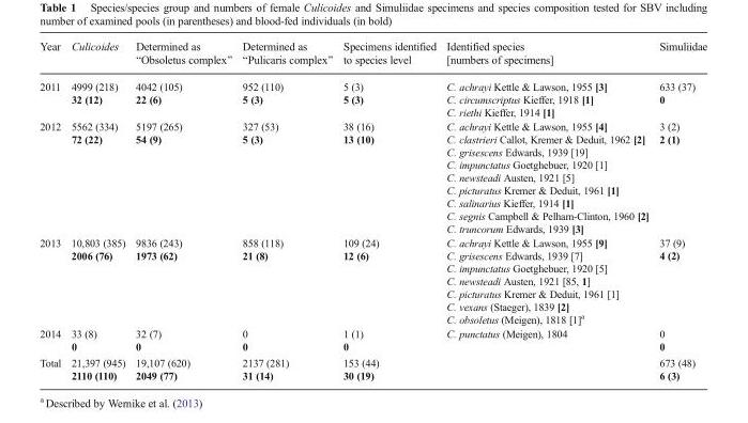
<table><thead><tr><td>Year</td><td>Culicoides</td><td>Determined as “Obsoletus complex”</td><td>Determined as “Pulicaris complex”</td><td>Specimens identified to species level</td><td>Identified species [numbers of specimens]</td><td>Simuliidae</td></tr></thead><tbody><tr><td>2011</td><td>4999 (218) 32 (12)</td><td>4042 (105) 22 (6)</td><td>952 (110) 5 (3)</td><td>5 (3) 5 (3)</td><td>C. achrayi Kettle &amp; Lawson, 1955 [3] C. circumscriptus Kieffer, 1918 [1] C. riethi Kieffer, 1914 [1]</td><td>633 (37) 0</td></tr><tr><td>2012</td><td>5562 (334) 72 (22)</td><td>5197 (265) 54 (9)</td><td>327 (53) 5 (3)</td><td>38 (16) 13 (10)</td><td>C. achrayi Kettle &amp; Lawson, 1955 [4] C. clastrieri Callot, Kremer &amp; Deduit, 1962 [2] C. grisescens Edwards, 1939 [19] C. impunctatus Goetghebuer, 1920 [1] C. newsteadi Austen, 1921 [5] C. picturatus Kremer &amp; Deduit, 1961 [1] C. salinarius Kieffer, 1914 [1] C. segnis Campbell &amp; Pelham-Clinton, 1960 [2] C. truncorum Edwards, 1939 [3]</td><td>3 (2) 2 (1)</td></tr><tr><td>2013</td><td>10,803 (385) 2006 (76)</td><td>9836 (243) 1973 (62)</td><td>858 (118) 21 (8)</td><td>109 (24) 12 (6)</td><td>C. achrayi Kettle &amp; Lawson, 1955 [9] C. grisescens Edwards, 1939 [7] C. impunctatus Goetghebuer, 1920 [5] C. newsteadi Austen, 1921 [85, 1] C. picturatus Kremer &amp; Deduit, 1961 [1] C. vexans (Staeger), 1839 [2] C. obsoletus (Meigen), 1818 [1]<sup>a</sup></td><td>37 (9) 4 (2)</td></tr><tr><td>2014</td><td>33 (8) 0</td><td>32 (7) 0</td><td>0 0</td><td>1 (1) 0</td><td>C. punctatus (Meigen), 1804</td><td>0 0</td></tr><tr><td>Total</td><td>21,397 (945) 2110 (110)</td><td>19,107 (620) 2049 (77)</td><td>2137 (281) 31 (14)</td><td>153 (44) 30 (19)</td><td></td><td>673 (48) 6 (3)</td></tr></tbody></table>